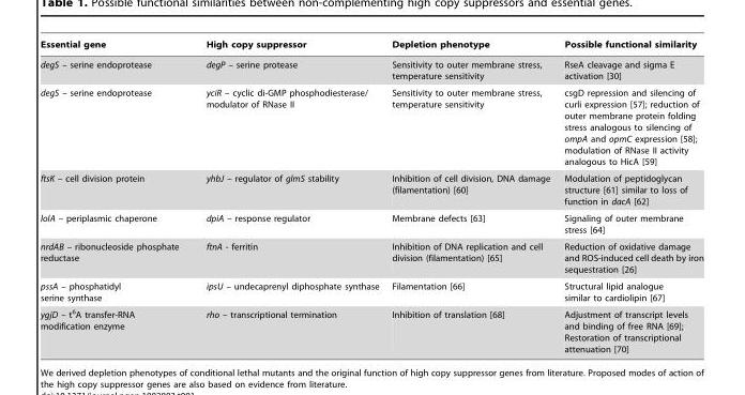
<table><thead><tr><td>Essential gene</td><td>High copy suppressor</td><td>Depletion phenotype</td><td>Possible functional similarity</td></tr></thead><tbody><tr><td>degS – serine endoprotease</td><td>degP – serine protease</td><td>Sensitivity to outer membrane stress, temperature sensitivity</td><td>RseA cleavage and sigma E activation [30]</td></tr><tr><td>degS – serine endoprotease</td><td>yciR – cyclic di-GMP phosphodiesterase/ modulator of RNase II</td><td>Sensitivity to outer membrane stress, temperature sensitivity</td><td>csgD repression and silencing of curli expression [57]; reduction of outer membrane protein folding stress analogous to silencing of ompA and opmC expression [58]; modulation of RNase II activity analogous to HicA [59]</td></tr><tr><td>ftsK – cell division protein</td><td>yhbJ – regulator of glmS stability</td><td>Inhibition of cell division, DNA damage (filamentation) [60]</td><td>Modulation of peptidoglycan structure [61] similar to loss of function in dacA [62]</td></tr><tr><td>lolA – periplasmic chaperone</td><td>dpiA – response regulator</td><td>Membrane defects [63]</td><td>Signaling of outer membrane stress [64]</td></tr><tr><td>nrdAB – ribonucleoside phosphate reductase</td><td>ftnA - ferritin</td><td>Inhibition of DNA replication and cell division (filamentation) [65]</td><td>Reduction of oxidative damage and ROS-induced cell death by iron sequestration [26]</td></tr><tr><td>pssA – phosphatidyl serine synthase</td><td>ipsU – undecaprenyl diphosphate synthase</td><td>Filamentation [66]</td><td>Structural lipid analogue similar to cardiolipin [67]</td></tr><tr><td>ygjD – t<sup>6</sup>A transfer-RNA modification enzyme</td><td>rho – transcriptional termination</td><td>Inhibition of translation [68]</td><td>Adjustment of transcript levels and binding of free RNA [69]; Restoration of transcriptional attenuation [70]</td></tr></tbody></table>